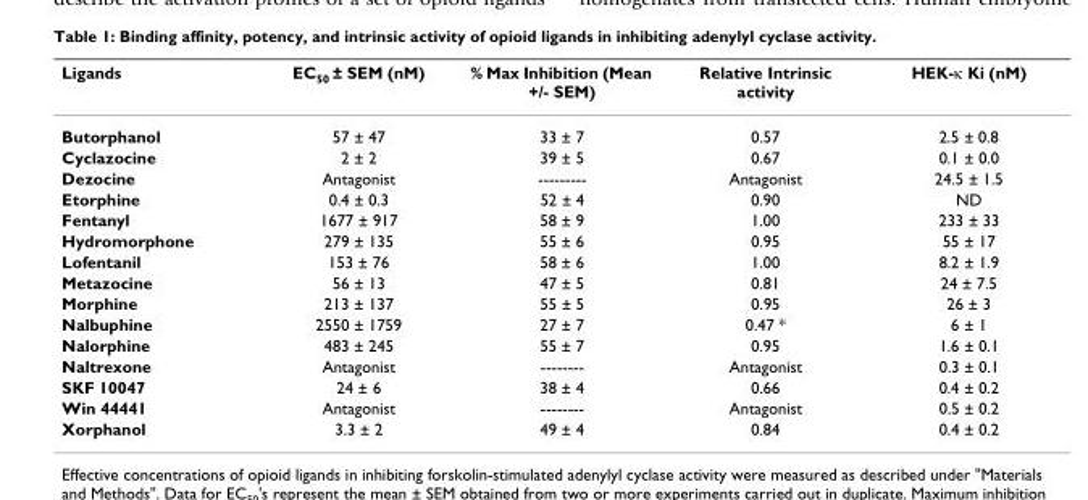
<table><thead><tr><td>Ligands</td><td>EC<sub>50</sub> ± SEM (nM)</td><td>% Max Inhibition (Mean +/- SEM)</td><td>Relative Intrinsic activity</td><td>HEK-κ Ki (nM)</td></tr></thead><tbody><tr><td>Butorphanol</td><td>57 ± 47</td><td>33 ± 7</td><td>0.57</td><td>2.5 ± 0.8</td></tr><tr><td>Cyclazocine</td><td>2 ± 2</td><td>39 ± 5</td><td>0.67</td><td>0.1 ± 0.0</td></tr><tr><td>Dezocine</td><td>Antagonist</td><td>---------</td><td>Antagonist</td><td>24.5 ± 1.5</td></tr><tr><td>Etorphine</td><td>0.4 ± 0.3</td><td>52 ± 4</td><td>0.90</td><td>ND</td></tr><tr><td>Fentanyl</td><td>1677 ± 917</td><td>58 ± 9</td><td>1.00</td><td>233 ± 33</td></tr><tr><td>Hydromorphone</td><td>279 ± 135</td><td>55 ± 6</td><td>0.95</td><td>55 ± 17</td></tr><tr><td>Lofentanil</td><td>153 ± 76</td><td>58 ± 6</td><td>1.00</td><td>8.2 ± 1.9</td></tr><tr><td>Metazocine</td><td>56 ± 13</td><td>47 ± 5</td><td>0.81</td><td>24 ± 7.5</td></tr><tr><td>Morphine</td><td>213 ± 137</td><td>55 ± 5</td><td>0.95</td><td>26 ± 3</td></tr><tr><td>Nalbuphine</td><td>2550 ± 1759</td><td>27 ± 7</td><td>0.47 *</td><td>6 ± 1</td></tr><tr><td>Nalorphine</td><td>483 ± 245</td><td>55 ± 7</td><td>0.95</td><td>1.6 ± 0.1</td></tr><tr><td>Naltrexone</td><td>Antagonist</td><td>--------</td><td>Antagonist</td><td>0.3 ± 0.1</td></tr><tr><td>SKF 10047</td><td>24 ± 6</td><td>38 ± 4</td><td>0.66</td><td>0.4 ± 0.2</td></tr><tr><td>Win 44441</td><td>Antagonist</td><td>--------</td><td>Antagonist</td><td>0.5 ± 0.2</td></tr><tr><td>Xorphanol</td><td>3.3 ± 2</td><td>49 ± 4</td><td>0.84</td><td>0.4 ± 0.2</td></tr></tbody></table>